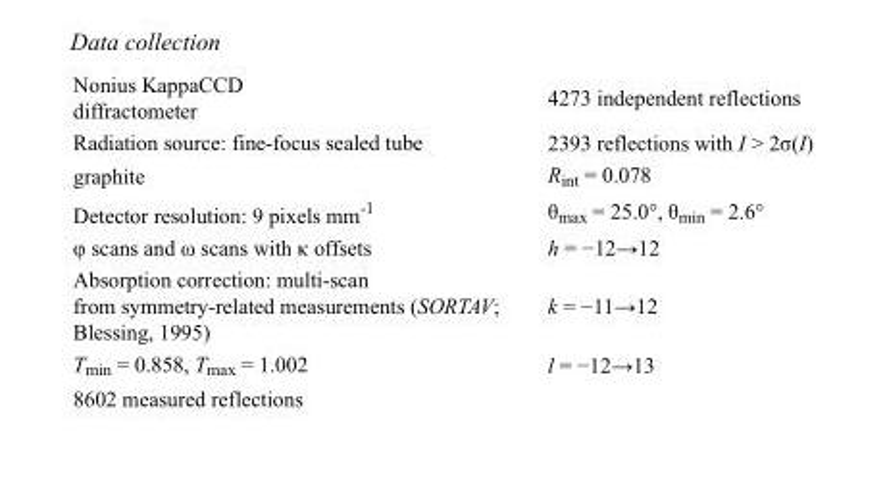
<table><tbody><tr><td>Nonius KappaCCD diffractometer</td><td>4273 independent reflections</td></tr><tr><td>Radiation source: fine-focus sealed tube</td><td>2393 reflections with I &gt; 2σ(I)</td></tr><tr><td>graphite</td><td>R<sub>int</sub> = 0.078</td></tr><tr><td>Detector resolution: 9 pixels mm<sup>-1</sup></td><td>θ<sub>max</sub> = 25.0°, θ<sub>min</sub> = 2.6°</td></tr><tr><td>φ scans and ω scans with κ offsets</td><td>h = −12→12</td></tr><tr><td>Absorption correction: multi-scan from symmetry-related measurements (SORTAV; Blessing, 1995)</td><td>k = −11→12</td></tr><tr><td>T<sub>min</sub> = 0.858, T<sub>max</sub> = 1.002</td><td>l = −12→13</td></tr><tr><td>8602 measured reflections</td><td></td></tr></tbody></table>